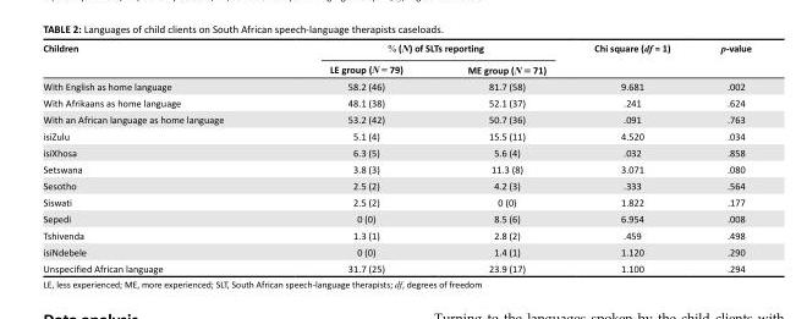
<table><thead><tr><td rowspan="2">Children</td><td colspan="2">% (N) of SLTs reporting</td><td rowspan="2">Chi square (df = 1)</td><td rowspan="2">p-value</td></tr><tr><td>LE group (N = 79)</td><td>ME group (N = 71)</td></tr></thead><tbody><tr><td>With English as home language</td><td>58.2 (46)</td><td>81.7 (58)</td><td>9.681</td><td>.002</td></tr><tr><td>With Afrikaans as home language</td><td>48.1 (38)</td><td>52.1 (37)</td><td>.241</td><td>.624</td></tr><tr><td>With an African language as home language</td><td>53.2 (42)</td><td>50.7 (36)</td><td>.091</td><td>.763</td></tr><tr><td>isiZulu</td><td>5.1 (4)</td><td>15.5 (11)</td><td>4.520</td><td>.034</td></tr><tr><td>isiXhosa</td><td>6.3 (5)</td><td>5.6 (4)</td><td>.032</td><td>.858</td></tr><tr><td>Setswana</td><td>3.8 (3)</td><td>11.3 (8)</td><td>3.071</td><td>.080</td></tr><tr><td>Sesotho</td><td>2.5 (2)</td><td>4.2 (3)</td><td>.333</td><td>.564</td></tr><tr><td>Siswati</td><td>2.5 (2)</td><td>0 (0)</td><td>1.822</td><td>.177</td></tr><tr><td>Sepedi</td><td>0 (0)</td><td>8.5 (6)</td><td>6.954</td><td>.008</td></tr><tr><td>Tshivenda</td><td>1.3 (1)</td><td>2.8 (2)</td><td>.459</td><td>.498</td></tr><tr><td>isiNdebele</td><td>0 (0)</td><td>1.4 (1)</td><td>1.120</td><td>.290</td></tr><tr><td>Unspecified African language</td><td>31.7 (25)</td><td>23.9 (17)</td><td>1.100</td><td>.294</td></tr></tbody></table>